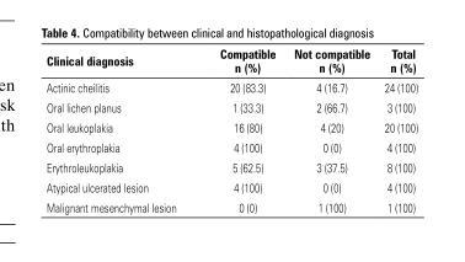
<table><thead><tr><td>Clinical diagnosis</td><td>Compatible n (%)</td><td>Not compatible n (%)</td><td>Total n (%)</td></tr></thead><tbody><tr><td>Actinic cheilitis</td><td>20 (83.3)</td><td>4 (16.7)</td><td>24 (100)</td></tr><tr><td>Oral lichen planus</td><td>1 (33.3)</td><td>2 (66.7)</td><td>3 (100)</td></tr><tr><td>Oral leukoplakia</td><td>16 (80)</td><td>4 (20)</td><td>20 (100)</td></tr><tr><td>Oral erythroplakia</td><td>4 (100)</td><td>0 (0)</td><td>4 (100)</td></tr><tr><td>Erythroleukoplakia</td><td>5 (62.5)</td><td>3 (37.5)</td><td>8 (100)</td></tr><tr><td>Atypical ulcerated lesion</td><td>4 (100)</td><td>0 (0)</td><td>4 (100)</td></tr><tr><td>Malignant mesenchymal lesion</td><td>0 (0)</td><td>1 (100)</td><td>1 (100)</td></tr></tbody></table>